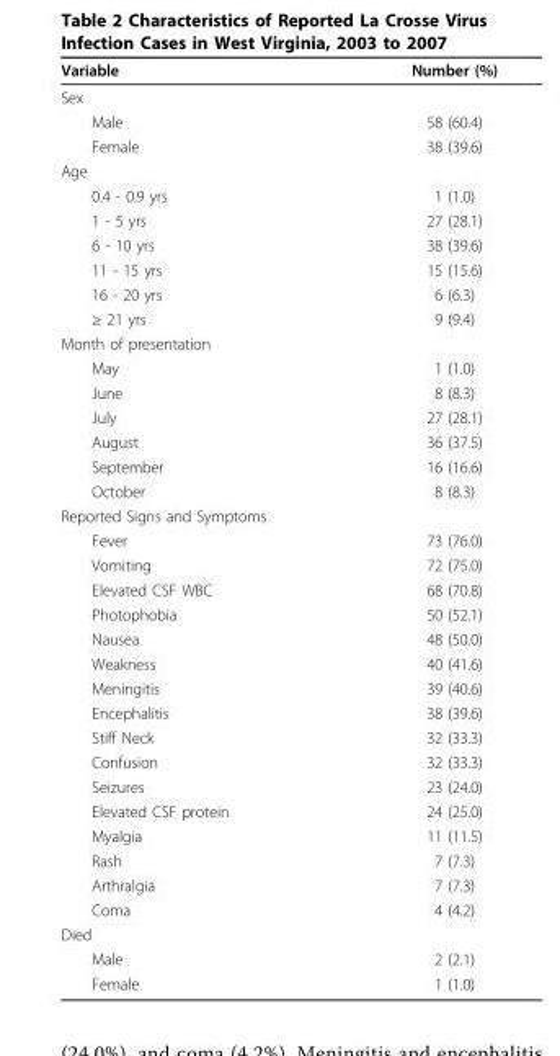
<table><thead><tr><td>Variable</td><td>Number (%)</td></tr></thead><tbody><tr><td colspan="2">Sex</td></tr><tr><td>Male</td><td>58 (60.4)</td></tr><tr><td>Female</td><td>38 (39.6)</td></tr><tr><td colspan="2">Age</td></tr><tr><td>0.4 - 0.9 yrs</td><td>1 (1.0)</td></tr><tr><td>1 - 5 yrs</td><td>27 (28.1)</td></tr><tr><td>6 - 10 yrs</td><td>38 (39.6)</td></tr><tr><td>11 - 15 yrs</td><td>15 (15.6)</td></tr><tr><td>16 - 20 yrs</td><td>6 (6.3)</td></tr><tr><td>≥ 21 yrs</td><td>9 (9.4)</td></tr><tr><td colspan="2">Month of presentation</td></tr><tr><td>May</td><td>1 (1.0)</td></tr><tr><td>June</td><td>8 (8.3)</td></tr><tr><td>July</td><td>27 (28.1)</td></tr><tr><td>August</td><td>36 (37.5)</td></tr><tr><td>September</td><td>16 (16.6)</td></tr><tr><td>October</td><td>8 (8.3)</td></tr><tr><td colspan="2">Reported Signs and Symptoms</td></tr><tr><td>Fever</td><td>73 (76.0)</td></tr><tr><td>Vomiting</td><td>72 (75.0)</td></tr><tr><td>Elevated CSF WBC</td><td>68 (70.8)</td></tr><tr><td>Photophobia</td><td>50 (52.1)</td></tr><tr><td>Nausea</td><td>48 (50.0)</td></tr><tr><td>Weakness</td><td>40 (41.6)</td></tr><tr><td>Meningitis</td><td>39 (40.6)</td></tr><tr><td>Encephalitis</td><td>38 (39.6)</td></tr><tr><td>Stiff Neck</td><td>32 (33.3)</td></tr><tr><td>Confusion</td><td>32 (33.3)</td></tr><tr><td>Seizures</td><td>23 (24.0)</td></tr><tr><td>Elevated CSF protein</td><td>24 (25.0)</td></tr><tr><td>Myalgia</td><td>11 (11.5)</td></tr><tr><td>Rash</td><td>7 (7.3)</td></tr><tr><td>Arthralgia</td><td>7 (7.3)</td></tr><tr><td>Coma</td><td>4 (4.2)</td></tr><tr><td colspan="2">Died</td></tr><tr><td>Male</td><td>2 (2.1)</td></tr><tr><td>Female</td><td>1 (1.0)</td></tr></tbody></table>